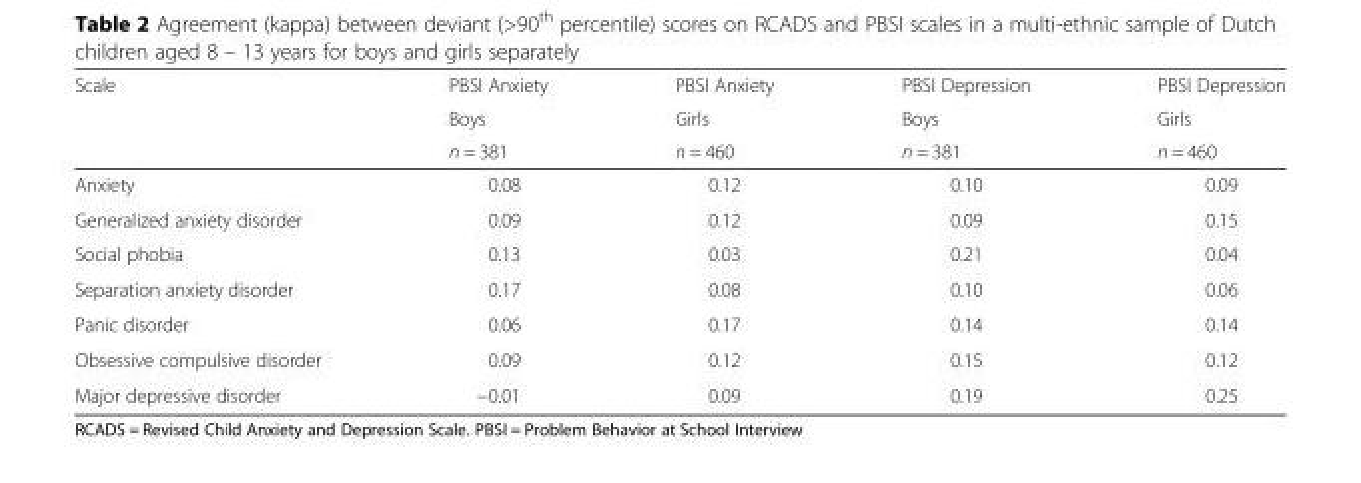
<table><thead><tr><td rowspan="3">Scale</td><td rowspan="3">PBSI Anxiety Boys n = 381</td><td rowspan="3">PBSI Anxiety Girls n = 460</td><td rowspan="3">PBSI Depression Boys n = 381</td><td rowspan="3">PBSI Depression Girls n = 460</td></tr><tr></tr><tr></tr></thead><tbody><tr><td>Anxiety</td><td>0.08</td><td>0.12</td><td>0.10</td><td>0.09</td></tr><tr><td>Generalized anxiety disorder</td><td>0.09</td><td>0.12</td><td>0.09</td><td>0.15</td></tr><tr><td>Social phobia</td><td>0.13</td><td>0.03</td><td>0.21</td><td>0.04</td></tr><tr><td>Separation anxiety disorder</td><td>0.17</td><td>0.08</td><td>0.10</td><td>0.06</td></tr><tr><td>Panic disorder</td><td>0.06</td><td>0.17</td><td>0.14</td><td>0.14</td></tr><tr><td>Obsessive compulsive disorder</td><td>0.09</td><td>0.12</td><td>0.15</td><td>0.12</td></tr><tr><td>Major depressive disorder</td><td>−0.01</td><td>0.09</td><td>0.19</td><td>0.25</td></tr></tbody></table>